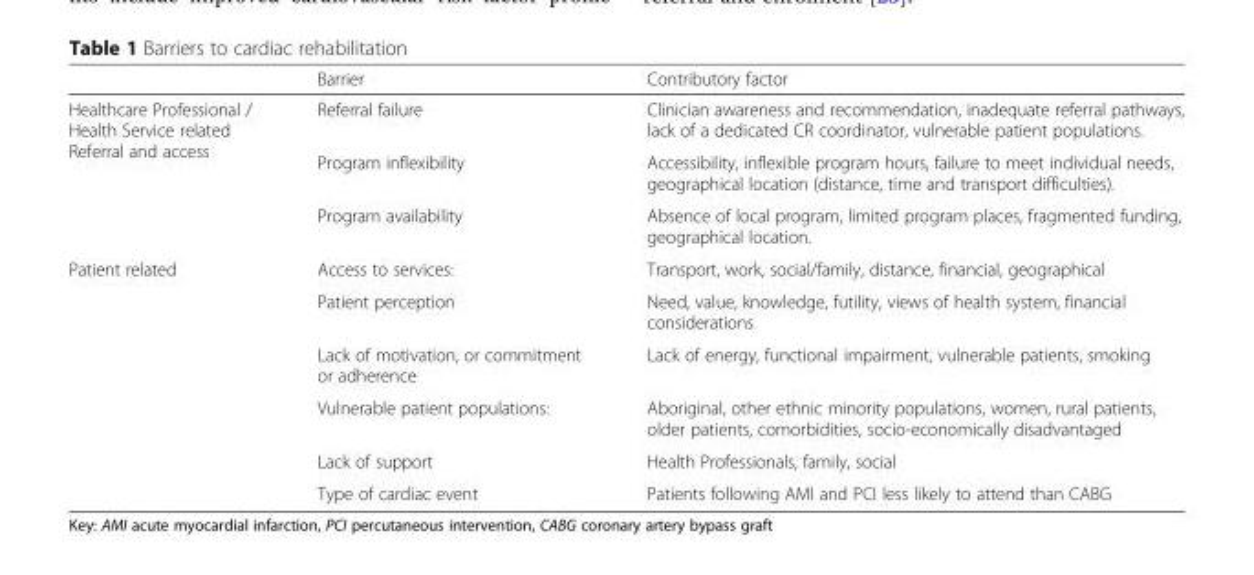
<table><thead><tr><td></td><td>Barrier</td><td>Contributory factor</td></tr></thead><tbody><tr><td rowspan="3">Healthcare Professional / Health Service related Referral and access</td><td>Referral failure</td><td>Clinician awareness and recommendation, inadequate referral pathways, lack of a dedicated CR coordinator, vulnerable patient populations.</td></tr><tr><td>Program inflexibility</td><td>Accessibility, inflexible program hours, failure to meet individual needs, geographical location (distance, time and transport difficulties).</td></tr><tr><td>Program availability</td><td>Absence of local program, limited program places, fragmented funding, geographical location.</td></tr><tr><td rowspan="6">Patient related</td><td>Access to services:</td><td>Transport, work, social/family, distance, financial, geographical</td></tr><tr><td>Patient perception</td><td>Need, value, knowledge, futility, views of health system, financial considerations</td></tr><tr><td>Lack of motivation, or commitment or adherence</td><td>Lack of energy, functional impairment, vulnerable patients, smoking</td></tr><tr><td>Vulnerable patient populations:</td><td>Aboriginal, other ethnic minority populations, women, rural patients, older patients, comorbidities, socio-economically disadvantaged</td></tr><tr><td>Lack of support</td><td>Health Professionals, family, social</td></tr><tr><td>Type of cardiac event</td><td>Patients following AMI and PCI less likely to attend than CABG</td></tr></tbody></table>